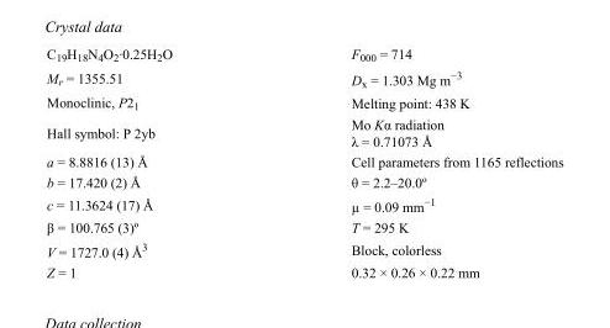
<table><tbody><tr><td>C<sub>19</sub>H<sub>18</sub>N<sub>4</sub>O<sub>2</sub>·0.25H<sub>2</sub>O</td><td>F000 = 714</td></tr><tr><td>M<sub>r</sub> = 1355.51</td><td>D<sub>x</sub> = 1.303 Mg m<sup>−3</sup></td></tr><tr><td>Monoclinic, P2<sub>1</sub></td><td>Melting point: 438 K</td></tr><tr><td>Hall symbol: P 2yb</td><td>Mo Kα radiation λ = 0.71073 Å</td></tr><tr><td>a = 8.8816 (13) Å</td><td>Cell parameters from 1165 reflections</td></tr><tr><td>b = 17.420 (2) Å</td><td>θ = 2.2–20.0º</td></tr><tr><td>c = 11.3624 (17) Å</td><td>µ = 0.09 mm<sup>−1</sup></td></tr><tr><td>β = 100.765 (3)º</td><td>T = 295 K</td></tr><tr><td>V = 1727.0 (4) Å<sup>3</sup></td><td>Block, colorless</td></tr><tr><td>Z = 1</td><td>0.32 × 0.26 × 0.22 mm</td></tr></tbody></table>